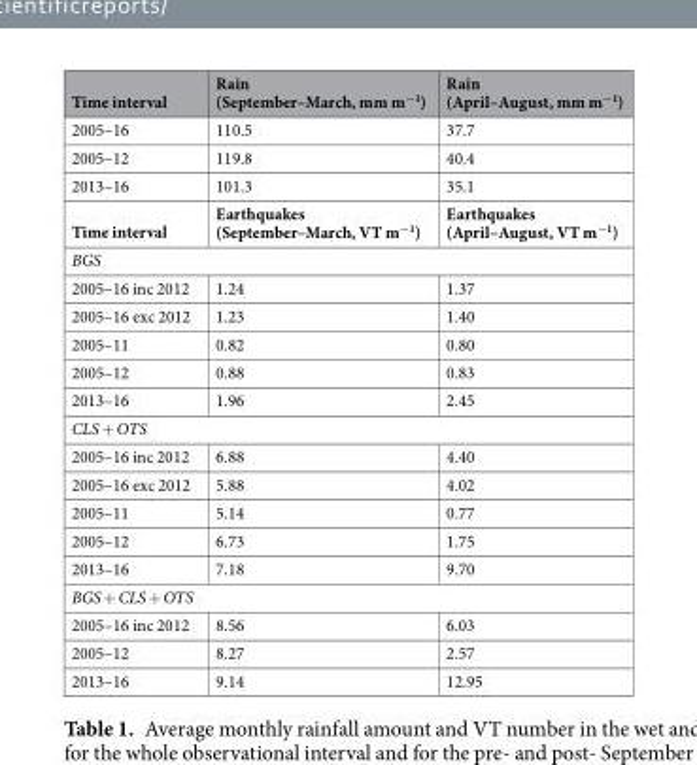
<table><thead><tr><td>Time interval</td><td>Rain (September–March, mm m<sup>−1</sup>)</td><td>Rain (April–August, mm m<sup>−1</sup>)</td></tr></thead><tbody><tr><td>2005–16</td><td>110.5</td><td>37.7</td></tr><tr><td>2005–12</td><td>119.8</td><td>40.4</td></tr><tr><td>2013–16</td><td>101.3</td><td>35.1</td></tr><tr><td>Time interval</td><td>Earthquakes (September–March, VT m<sup>−1</sup>)</td><td>Earthquakes (April–August, VT m<sup>−1</sup>)</td></tr><tr><td colspan="3">BGS</td></tr><tr><td>2005–16 inc 2012</td><td>1.24</td><td>1.37</td></tr><tr><td>2005–16 exc 2012</td><td>1.23</td><td>1.40</td></tr><tr><td>2005–11</td><td>0.82</td><td>0.80</td></tr><tr><td>2005–12</td><td>0.88</td><td>0.83</td></tr><tr><td>2013–16</td><td>1.96</td><td>2.45</td></tr><tr><td colspan="3">CLS + OTS</td></tr><tr><td>2005–16 inc 2012</td><td>6.88</td><td>4.40</td></tr><tr><td>2005–16 exc 2012</td><td>5.88</td><td>4.02</td></tr><tr><td>2005–11</td><td>5.14</td><td>0.77</td></tr><tr><td>2005–12</td><td>6.73</td><td>1.75</td></tr><tr><td>2013–16</td><td>7.18</td><td>9.70</td></tr><tr><td colspan="3">BGS + CLS + OTS</td></tr><tr><td>2005–16 inc 2012</td><td>8.56</td><td>6.03</td></tr><tr><td>2005–12</td><td>8.27</td><td>2.57</td></tr><tr><td>2013–16</td><td>9.14</td><td>12.95</td></tr></tbody></table>